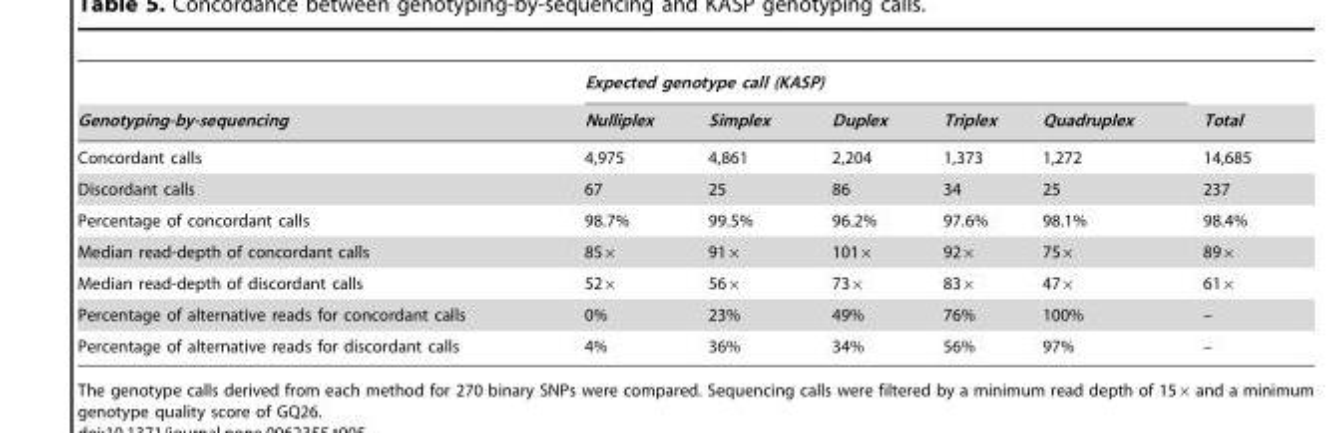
<table><thead><tr><td rowspan="2">Genotyping-by-sequencing</td><td colspan="5">Expected genotype call (KASP)</td><td rowspan="2">Total</td></tr><tr><td>Nulliplex</td><td>Simplex</td><td>Duplex</td><td>Triplex</td><td>Quadruplex</td></tr></thead><tbody><tr><td>Concordant calls</td><td>4,975</td><td>4,861</td><td>2,204</td><td>1,373</td><td>1,272</td><td>14,685</td></tr><tr><td>Discordant calls</td><td>67</td><td>25</td><td>86</td><td>34</td><td>25</td><td>237</td></tr><tr><td>Percentage of concordant calls</td><td>98.7%</td><td>99.5%</td><td>96.2%</td><td>97.6%</td><td>98.1%</td><td>98.4%</td></tr><tr><td>Median read-depth of concordant calls</td><td>85×</td><td>91×</td><td>101×</td><td>92×</td><td>75×</td><td>89×</td></tr><tr><td>Median read-depth of discordant calls</td><td>52×</td><td>56×</td><td>73×</td><td>83×</td><td>47×</td><td>61×</td></tr><tr><td>Percentage of alternative reads for concordant calls</td><td>0%</td><td>23%</td><td>49%</td><td>76%</td><td>100%</td><td>–</td></tr><tr><td>Percentage of alternative reads for discordant calls</td><td>4%</td><td>36%</td><td>34%</td><td>56%</td><td>97%</td><td>–</td></tr></tbody></table>